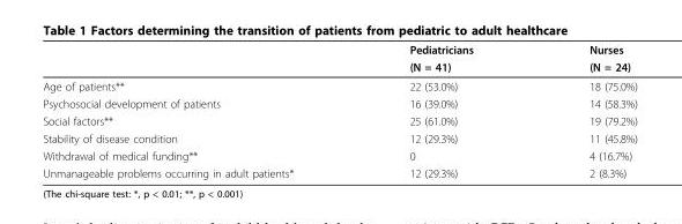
<table><thead><tr><td rowspan="2"></td><td rowspan="2">Pediatricians (N = 41)</td><td rowspan="2">Nurses (N = 24)</td></tr><tr></tr></thead><tbody><tr><td>Age of patients**</td><td>22 (53.0%)</td><td>18 (75.0%)</td></tr><tr><td>Psychosocial development of patients</td><td>16 (39.0%)</td><td>14 (58.3%)</td></tr><tr><td>Social factors**</td><td>25 (61.0%)</td><td>19 (79.2%)</td></tr><tr><td>Stability of disease condition</td><td>12 (29.3%)</td><td>11 (45.8%)</td></tr><tr><td>Withdrawal of medical funding**</td><td>0</td><td>4 (16.7%)</td></tr><tr><td>Unmanageable problems occurring in adult patients*</td><td>12 (29.3%)</td><td>2 (8.3%)</td></tr></tbody></table>